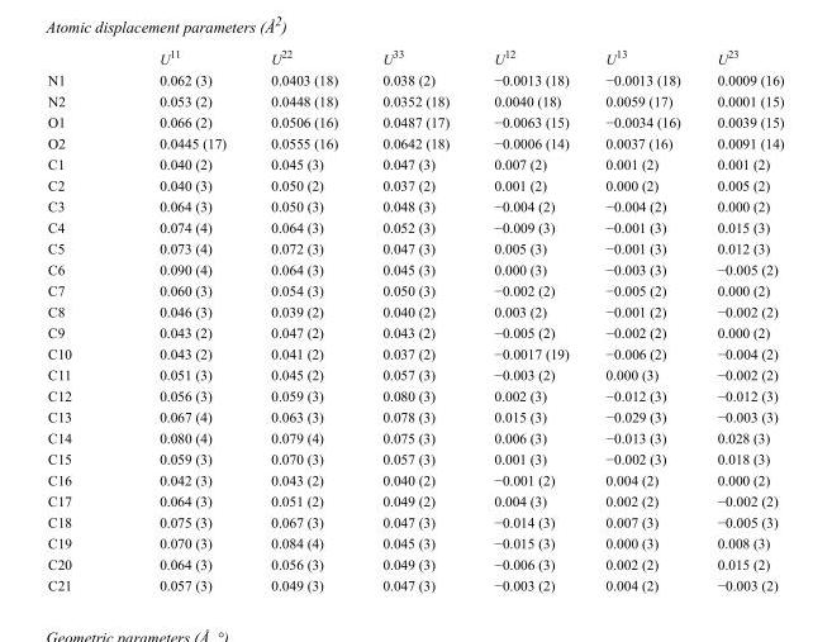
<table><thead><tr><td></td><td>U<sup>11</sup></td><td>U<sup>22</sup></td><td>U<sup>33</sup></td><td>U<sup>12</sup></td><td>U<sup>13</sup></td><td>U<sup>23</sup></td></tr></thead><tbody><tr><td>N1</td><td>0.062 (3)</td><td>0.0403 (18)</td><td>0.038 (2)</td><td>−0.0013 (18)</td><td>−0.0013 (18)</td><td>0.0009 (16)</td></tr><tr><td>N2</td><td>0.053 (2)</td><td>0.0448 (18)</td><td>0.0352 (18)</td><td>0.0040 (18)</td><td>0.0059 (17)</td><td>0.0001 (15)</td></tr><tr><td>O1</td><td>0.066 (2)</td><td>0.0506 (16)</td><td>0.0487 (17)</td><td>−0.0063 (15)</td><td>−0.0034 (16)</td><td>0.0039 (15)</td></tr><tr><td>O2</td><td>0.0445 (17)</td><td>0.0555 (16)</td><td>0.0642 (18)</td><td>−0.0006 (14)</td><td>0.0037 (16)</td><td>0.0091 (14)</td></tr><tr><td>C1</td><td>0.040 (2)</td><td>0.045 (3)</td><td>0.047 (3)</td><td>0.007 (2)</td><td>0.001 (2)</td><td>0.001 (2)</td></tr><tr><td>C2</td><td>0.040 (3)</td><td>0.050 (2)</td><td>0.037 (2)</td><td>0.001 (2)</td><td>0.000 (2)</td><td>0.005 (2)</td></tr><tr><td>C3</td><td>0.064 (3)</td><td>0.050 (3)</td><td>0.048 (3)</td><td>−0.004 (2)</td><td>−0.004 (2)</td><td>0.000 (2)</td></tr><tr><td>C4</td><td>0.074 (4)</td><td>0.064 (3)</td><td>0.052 (3)</td><td>−0.009 (3)</td><td>−0.001 (3)</td><td>0.015 (3)</td></tr><tr><td>C5</td><td>0.073 (4)</td><td>0.072 (3)</td><td>0.047 (3)</td><td>0.005 (3)</td><td>−0.001 (3)</td><td>0.012 (3)</td></tr><tr><td>C6</td><td>0.090 (4)</td><td>0.064 (3)</td><td>0.045 (3)</td><td>0.000 (3)</td><td>−0.003 (3)</td><td>−0.005 (2)</td></tr><tr><td>C7</td><td>0.060 (3)</td><td>0.054 (3)</td><td>0.050 (3)</td><td>−0.002 (2)</td><td>−0.005 (2)</td><td>0.000 (2)</td></tr><tr><td>C8</td><td>0.046 (3)</td><td>0.039 (2)</td><td>0.040 (2)</td><td>0.003 (2)</td><td>−0.001 (2)</td><td>−0.002 (2)</td></tr><tr><td>C9</td><td>0.043 (2)</td><td>0.047 (2)</td><td>0.043 (2)</td><td>−0.005 (2)</td><td>−0.002 (2)</td><td>0.000 (2)</td></tr><tr><td>C10</td><td>0.043 (2)</td><td>0.041 (2)</td><td>0.037 (2)</td><td>−0.0017 (19)</td><td>−0.006 (2)</td><td>−0.004 (2)</td></tr><tr><td>C11</td><td>0.051 (3)</td><td>0.045 (2)</td><td>0.057 (3)</td><td>−0.003 (2)</td><td>0.000 (3)</td><td>−0.002 (2)</td></tr><tr><td>C12</td><td>0.056 (3)</td><td>0.059 (3)</td><td>0.080 (3)</td><td>0.002 (3)</td><td>−0.012 (3)</td><td>−0.012 (3)</td></tr><tr><td>C13</td><td>0.067 (4)</td><td>0.063 (3)</td><td>0.078 (3)</td><td>0.015 (3)</td><td>−0.029 (3)</td><td>−0.003 (3)</td></tr><tr><td>C14</td><td>0.080 (4)</td><td>0.079 (4)</td><td>0.075 (3)</td><td>0.006 (3)</td><td>−0.013 (3)</td><td>0.028 (3)</td></tr><tr><td>C15</td><td>0.059 (3)</td><td>0.070 (3)</td><td>0.057 (3)</td><td>0.001 (3)</td><td>−0.002 (3)</td><td>0.018 (3)</td></tr><tr><td>C16</td><td>0.042 (3)</td><td>0.043 (2)</td><td>0.040 (2)</td><td>−0.001 (2)</td><td>0.004 (2)</td><td>0.000 (2)</td></tr><tr><td>C17</td><td>0.064 (3)</td><td>0.051 (2)</td><td>0.049 (2)</td><td>0.004 (3)</td><td>0.002 (2)</td><td>−0.002 (2)</td></tr><tr><td>C18</td><td>0.075 (3)</td><td>0.067 (3)</td><td>0.047 (3)</td><td>−0.014 (3)</td><td>0.007 (3)</td><td>−0.005 (3)</td></tr><tr><td>C19</td><td>0.070 (3)</td><td>0.084 (4)</td><td>0.045 (3)</td><td>−0.015 (3)</td><td>0.000 (3)</td><td>0.008 (3)</td></tr><tr><td>C20</td><td>0.064 (3)</td><td>0.056 (3)</td><td>0.049 (3)</td><td>−0.006 (3)</td><td>0.002 (2)</td><td>0.015 (2)</td></tr><tr><td>C21</td><td>0.057 (3)</td><td>0.049 (3)</td><td>0.047 (3)</td><td>−0.003 (2)</td><td>0.004 (2)</td><td>−0.003 (2)</td></tr></tbody></table>